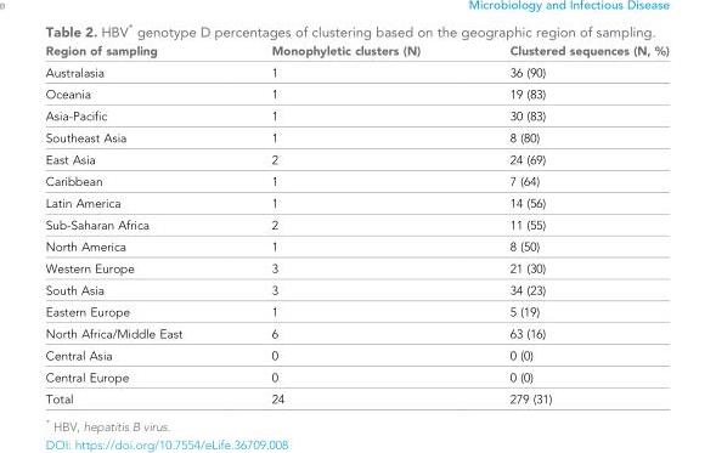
<table><thead><tr><td>Region of sampling</td><td>Monophyletic clusters (N)</td><td>Clustered sequences (N, %)</td></tr></thead><tbody><tr><td>Australasia</td><td>1</td><td>36 (90)</td></tr><tr><td>Oceania</td><td>1</td><td>19 (83)</td></tr><tr><td>Asia-Pacific</td><td>1</td><td>30 (83)</td></tr><tr><td>Southeast Asia</td><td>1</td><td>8 (80)</td></tr><tr><td>East Asia</td><td>2</td><td>24 (69)</td></tr><tr><td>Caribbean</td><td>1</td><td>7 (64)</td></tr><tr><td>Latin America</td><td>1</td><td>14 (56)</td></tr><tr><td>Sub-Saharan Africa</td><td>2</td><td>11 (55)</td></tr><tr><td>North America</td><td>1</td><td>8 (50)</td></tr><tr><td>Western Europe</td><td>3</td><td>21 (30)</td></tr><tr><td>South Asia</td><td>3</td><td>34 (23)</td></tr><tr><td>Eastern Europe</td><td>1</td><td>5 (19)</td></tr><tr><td>North Africa/Middle East</td><td>6</td><td>63 (16)</td></tr><tr><td>Central Asia</td><td>0</td><td>0 (0)</td></tr><tr><td>Central Europe</td><td>0</td><td>0 (0)</td></tr><tr><td>Total</td><td>24</td><td>279 (31)</td></tr></tbody></table>